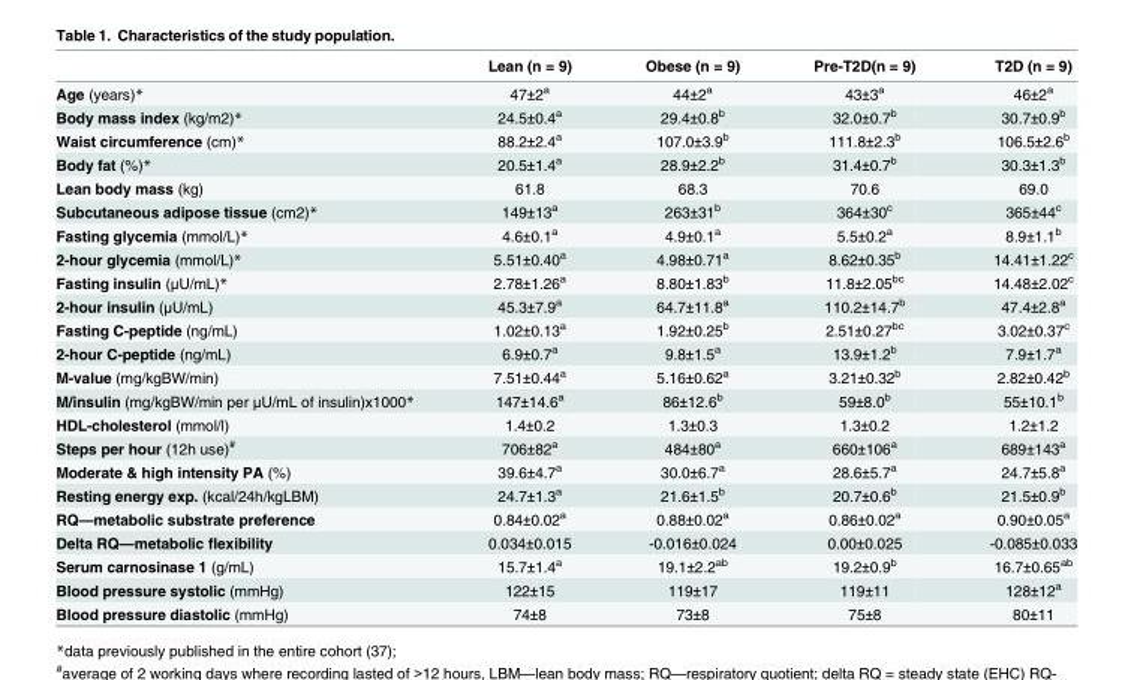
<table><thead><tr><td></td><td>Lean (n = 9)</td><td>Obese (n = 9)</td><td>Pre-T2D(n = 9)</td><td>T2D (n = 9)</td></tr></thead><tbody><tr><td>Age (years)*</td><td>47±2<sup>a</sup></td><td>44±2<sup>a</sup></td><td>43±3<sup>a</sup></td><td>46±2<sup>a</sup></td></tr><tr><td>Body mass index (kg/m2)*</td><td>24.5±0.4<sup>a</sup></td><td>29.4±0.8<sup>b</sup></td><td>32.0±0.7<sup>b</sup></td><td>30.7±0.9<sup>b</sup></td></tr><tr><td>Waist circumference (cm)*</td><td>88.2±2.4<sup>a</sup></td><td>107.0±3.9<sup>b</sup></td><td>111.8±2.3<sup>b</sup></td><td>106.5±2.6<sup>b</sup></td></tr><tr><td>Body fat (%)*</td><td>20.5±1.4<sup>a</sup></td><td>28.9±2.2<sup>b</sup></td><td>31.4±0.7<sup>b</sup></td><td>30.3±1.3<sup>b</sup></td></tr><tr><td>Lean body mass (kg)</td><td>61.8</td><td>68.3</td><td>70.6</td><td>69.0</td></tr><tr><td>Subcutaneous adipose tissue (cm2)*</td><td>149±13<sup>a</sup></td><td>263±31<sup>b</sup></td><td>364±30<sup>c</sup></td><td>365±44<sup>c</sup></td></tr><tr><td>Fasting glycemia (mmol/L)*</td><td>4.6±0.1<sup>a</sup></td><td>4.9±0.1<sup>a</sup></td><td>5.5±0.2<sup>a</sup></td><td>8.9±1.1<sup>b</sup></td></tr><tr><td>2-hour glycemia (mmol/L)*</td><td>5.51±0.40<sup>a</sup></td><td>4.98±0.71<sup>a</sup></td><td>8.62±0.35<sup>b</sup></td><td>14.41±1.22<sup>c</sup></td></tr><tr><td>Fasting insulin (μU/mL)*</td><td>2.78±1.26<sup>a</sup></td><td>8.80±1.83<sup>b</sup></td><td>11.8±2.05<sup>bc</sup></td><td>14.48±2.02<sup>c</sup></td></tr><tr><td>2-hour insulin (μU/mL)</td><td>45.3±7.9<sup>a</sup></td><td>64.7±11.8<sup>a</sup></td><td>110.2±14.7<sup>b</sup></td><td>47.4±2.8<sup>a</sup></td></tr><tr><td>Fasting C-peptide (ng/mL)</td><td>1.02±0.13<sup>a</sup></td><td>1.92±0.25<sup>b</sup></td><td>2.51±0.27<sup>bc</sup></td><td>3.02±0.37<sup>c</sup></td></tr><tr><td>2-hour C-peptide (ng/mL)</td><td>6.9±0.7<sup>a</sup></td><td>9.8±1.5<sup>a</sup></td><td>13.9±1.2<sup>b</sup></td><td>7.9±1.7<sup>a</sup></td></tr><tr><td>M-value (mg/kgBW/min)</td><td>7.51±0.44<sup>a</sup></td><td>5.16±0.62<sup>a</sup></td><td>3.21±0.32<sup>b</sup></td><td>2.82±0.42<sup>b</sup></td></tr><tr><td>M/insulin (mg/kgBW/min per μU/mL of insulin)x1000*</td><td>147±14.6<sup>a</sup></td><td>86±12.6<sup>b</sup></td><td>59±8.0<sup>b</sup></td><td>55±10.1<sup>b</sup></td></tr><tr><td>HDL-cholesterol (mmol/l)</td><td>1.4±0.2</td><td>1.3±0.3</td><td>1.3±0.2</td><td>1.2±1.2</td></tr><tr><td>Steps per hour (12h use)<sup>#</sup></td><td>706±82<sup>a</sup></td><td>484±80<sup>a</sup></td><td>660±106<sup>a</sup></td><td>689±143<sup>a</sup></td></tr><tr><td>Moderate &amp; high intensity PA (%)</td><td>39.6±4.7<sup>a</sup></td><td>30.0±6.7<sup>a</sup></td><td>28.6±5.7<sup>a</sup></td><td>24.7±5.8<sup>a</sup></td></tr><tr><td>Resting energy exp. (kcal/24h/kgLBM)</td><td>24.7±1.3<sup>a</sup></td><td>21.6±1.5<sup>b</sup></td><td>20.7±0.6<sup>b</sup></td><td>21.5±0.9<sup>b</sup></td></tr><tr><td>RQ—metabolic substrate preference</td><td>0.84±0.02<sup>a</sup></td><td>0.88±0.02<sup>a</sup></td><td>0.86±0.02<sup>a</sup></td><td>0.90±0.05<sup>a</sup></td></tr><tr><td>Delta RQ—metabolic flexibility</td><td>0.034±0.015</td><td>-0.016±0.024</td><td>0.00±0.025</td><td>-0.085±0.033</td></tr><tr><td>Serum carnosinase 1 (g/mL)</td><td>15.7±1.4<sup>a</sup></td><td>19.1±2.2<sup>ab</sup></td><td>19.2±0.9<sup>b</sup></td><td>16.7±0.65<sup>ab</sup></td></tr><tr><td>Blood pressure systolic (mmHg)</td><td>122±15</td><td>119±17</td><td>119±11</td><td>128±12<sup>a</sup></td></tr><tr><td>Blood pressure diastolic (mmHg)</td><td>74±8</td><td>73±8</td><td>75±8</td><td>80±11</td></tr></tbody></table>